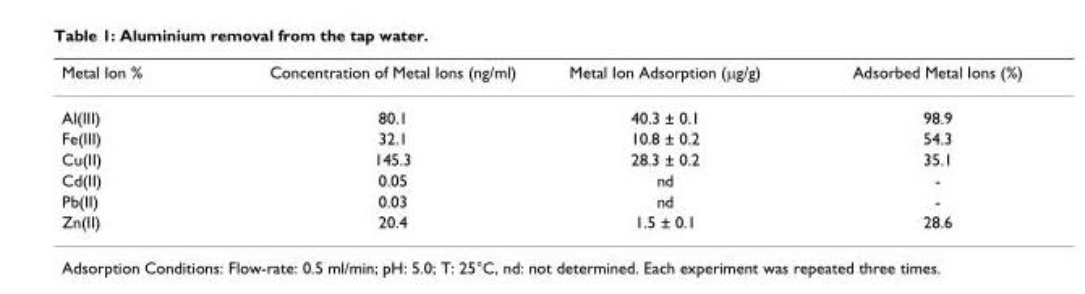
<table><thead><tr><td>Metal Ion %</td><td>Concentration of Metal Ions (ng/ml)</td><td>Metal Ion Adsorption (µg/g)</td><td>Adsorbed Metal Ions (%)</td></tr></thead><tbody><tr><td>Al(III)</td><td>80.1</td><td>40.3 ± 0.1</td><td>98.9</td></tr><tr><td>Fe(III)</td><td>32.1</td><td>10.8 ± 0.2</td><td>54.3</td></tr><tr><td>Cu(II)</td><td>145.3</td><td>28.3 ± 0.2</td><td>35.1</td></tr><tr><td>Cd(II)</td><td>0.05</td><td>nd</td><td>-</td></tr><tr><td>Pb(II)</td><td>0.03</td><td>nd</td><td>-</td></tr><tr><td>Zn(II)</td><td>20.4</td><td>1.5 ± 0.1</td><td>28.6</td></tr></tbody></table>